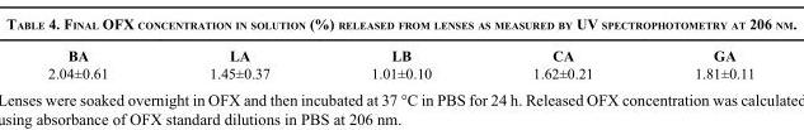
<table><thead><tr><td>BA</td><td>LA</td><td>LB</td><td>CA</td><td>GA</td></tr></thead><tbody><tr><td>2.04±0.61</td><td>1.45±0.37</td><td>1.01±0.10</td><td>1.62±0.21</td><td>1.81±0.11</td></tr></tbody></table>